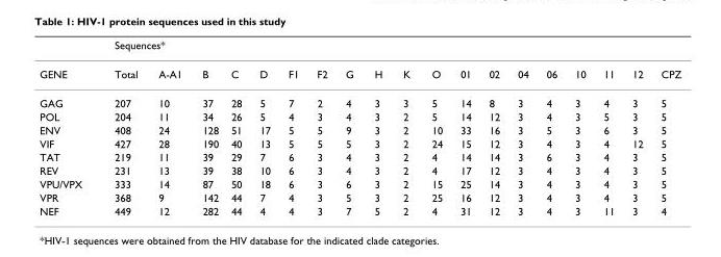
<table><thead><tr><td rowspan="2">GENE</td><td colspan="19">Sequences*</td></tr><tr><td>Total</td><td>A-A1</td><td>B</td><td>C</td><td>D</td><td>F1</td><td>F2</td><td>G</td><td>H</td><td>K</td><td>O</td><td>01</td><td>02</td><td>04</td><td>06</td><td>10</td><td>11</td><td>12</td><td>CPZ</td></tr></thead><tbody><tr><td>GAG</td><td>207</td><td>10</td><td>37</td><td>28</td><td>5</td><td>7</td><td>2</td><td>4</td><td>3</td><td>3</td><td>5</td><td>14</td><td>8</td><td>3</td><td>4</td><td>3</td><td>4</td><td>3</td><td>5</td></tr><tr><td>POL</td><td>204</td><td>11</td><td>34</td><td>26</td><td>5</td><td>4</td><td>3</td><td>4</td><td>3</td><td>2</td><td>5</td><td>14</td><td>12</td><td>3</td><td>4</td><td>3</td><td>5</td><td>3</td><td>5</td></tr><tr><td>ENV</td><td>408</td><td>24</td><td>128</td><td>51</td><td>17</td><td>5</td><td>5</td><td>9</td><td>3</td><td>2</td><td>10</td><td>33</td><td>16</td><td>3</td><td>5</td><td>3</td><td>6</td><td>3</td><td>5</td></tr><tr><td>VIF</td><td>427</td><td>28</td><td>190</td><td>40</td><td>13</td><td>5</td><td>5</td><td>5</td><td>3</td><td>2</td><td>24</td><td>15</td><td>12</td><td>3</td><td>4</td><td>3</td><td>4</td><td>12</td><td>5</td></tr><tr><td>TAT</td><td>219</td><td>11</td><td>39</td><td>29</td><td>7</td><td>6</td><td>3</td><td>4</td><td>3</td><td>2</td><td>4</td><td>14</td><td>14</td><td>3</td><td>6</td><td>3</td><td>4</td><td>3</td><td>5</td></tr><tr><td>REV</td><td>231</td><td>13</td><td>39</td><td>38</td><td>10</td><td>6</td><td>3</td><td>4</td><td>3</td><td>2</td><td>4</td><td>17</td><td>12</td><td>3</td><td>4</td><td>3</td><td>4</td><td>3</td><td>5</td></tr><tr><td>VPU/VPX</td><td>333</td><td>14</td><td>87</td><td>50</td><td>18</td><td>6</td><td>3</td><td>6</td><td>3</td><td>2</td><td>15</td><td>25</td><td>14</td><td>3</td><td>4</td><td>3</td><td>4</td><td>3</td><td>5</td></tr><tr><td>VPR</td><td>368</td><td>9</td><td>142</td><td>44</td><td>7</td><td>4</td><td>3</td><td>5</td><td>3</td><td>2</td><td>25</td><td>16</td><td>12</td><td>3</td><td>4</td><td>3</td><td>4</td><td>3</td><td>5</td></tr><tr><td>NEF</td><td>449</td><td>12</td><td>282</td><td>44</td><td>4</td><td>4</td><td>3</td><td>7</td><td>5</td><td>2</td><td>4</td><td>31</td><td>12</td><td>3</td><td>4</td><td>3</td><td>11</td><td>3</td><td>4</td></tr></tbody></table>